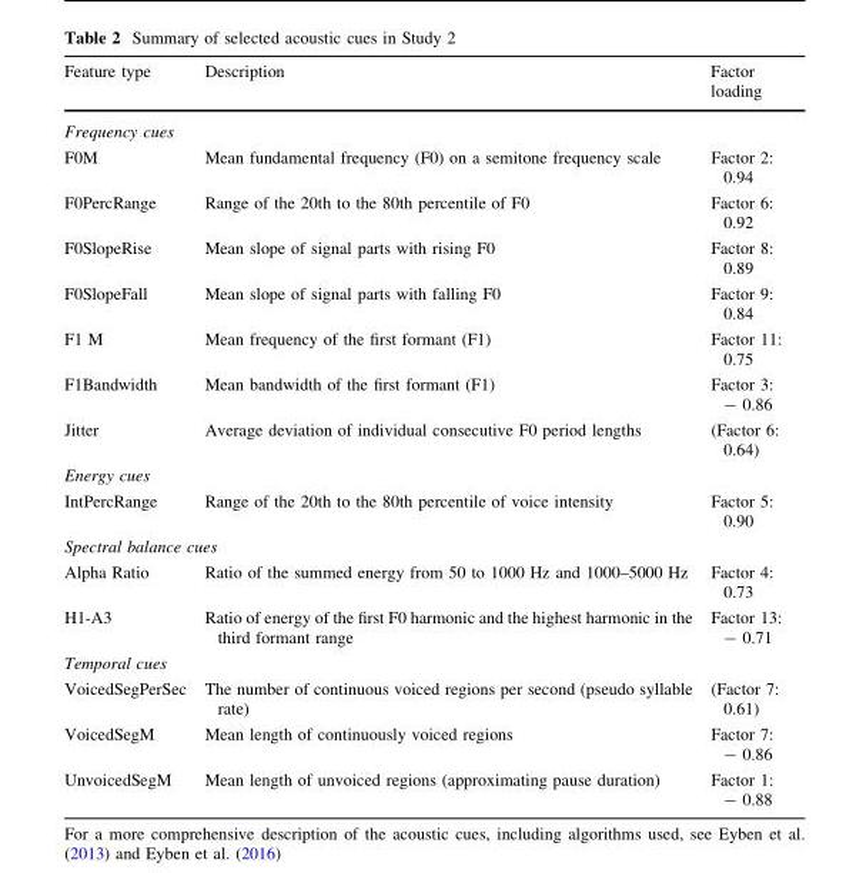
<table><thead><tr><td>Feature type</td><td>Description</td><td>Factor loading</td></tr></thead><tbody><tr><td colspan="3">Frequency cues</td></tr><tr><td>F0M</td><td>Mean fundamental frequency (F0) on a semitone frequency scale</td><td>Factor 2: 0.94</td></tr><tr><td>F0PercRange</td><td>Range of the 20th to the 80th percentile of F0</td><td>Factor 6: 0.92</td></tr><tr><td>F0SlopeRise</td><td>Mean slope of signal parts with rising F0</td><td>Factor 8: 0.89</td></tr><tr><td>F0SlopeFall</td><td>Mean slope of signal parts with falling F0</td><td>Factor 9: 0.84</td></tr><tr><td>F1 M</td><td>Mean frequency of the first formant (F1)</td><td>Factor 11: 0.75</td></tr><tr><td>F1Bandwidth</td><td>Mean bandwidth of the first formant (F1)</td><td>Factor 3: - 0.86</td></tr><tr><td>Jitter</td><td>Average deviation of individual consecutive F0 period lengths</td><td>(Factor 6: 0.64)</td></tr><tr><td colspan="3">Energy cues</td></tr><tr><td>IntPercRange</td><td>Range of the 20th to the 80th percentile of voice intensity</td><td>Factor 5: 0.90</td></tr><tr><td colspan="3">Spectral balance cues</td></tr><tr><td>Alpha Ratio</td><td>Ratio of the summed energy from 50 to 1000 Hz and 1000–5000 Hz</td><td>Factor 4: 0.73</td></tr><tr><td>H1-A3</td><td>Ratio of energy of the first F0 harmonic and the highest harmonic in the third formant range</td><td>Factor 13: - 0.71</td></tr><tr><td colspan="3">Temporal cues</td></tr><tr><td>VoicedSegPerSec</td><td>The number of continuous voiced regions per second (pseudo syllable rate)</td><td>(Factor 7: 0.61)</td></tr><tr><td>VoicedSegM</td><td>Mean length of continuously voiced regions</td><td>Factor 7: - 0.86</td></tr><tr><td>UnvoicedSegM</td><td>Mean length of unvoiced regions (approximating pause duration)</td><td>Factor 1: - 0.88</td></tr></tbody></table>